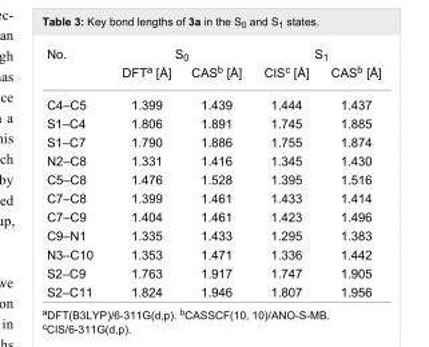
<table><tbody><tr><td rowspan="2">No.</td><td colspan="2">S<sub>0</sub></td><td colspan="2">S<sub>1</sub></td></tr><tr><td>DFT<sup>a</sup> [Å]</td><td>CAS<sup>b</sup> [Å]</td><td>CIS<sup>c</sup> [Å]</td><td>CAS<sup>b</sup> [Å]</td></tr><tr><td>C4–C5</td><td>1.399</td><td>1.439</td><td>1.444</td><td>1.437</td></tr><tr><td>S1–C4</td><td>1.806</td><td>1.891</td><td>1.745</td><td>1.885</td></tr><tr><td>S1–C7</td><td>1.790</td><td>1.886</td><td>1.755</td><td>1.874</td></tr><tr><td>N2–C8</td><td>1.331</td><td>1.416</td><td>1.345</td><td>1.430</td></tr><tr><td>C5–C8</td><td>1.476</td><td>1.528</td><td>1.395</td><td>1.516</td></tr><tr><td>C7–C8</td><td>1.399</td><td>1.461</td><td>1.433</td><td>1.414</td></tr><tr><td>C7–C9</td><td>1.404</td><td>1.461</td><td>1.423</td><td>1.496</td></tr><tr><td>C9–N1</td><td>1.335</td><td>1.433</td><td>1.295</td><td>1.383</td></tr><tr><td>N3–C10</td><td>1.353</td><td>1.471</td><td>1.336</td><td>1.442</td></tr><tr><td>S2–C9</td><td>1.763</td><td>1.917</td><td>1.747</td><td>1.905</td></tr><tr><td>S2–C11</td><td>1.824</td><td>1.946</td><td>1.807</td><td>1.956</td></tr></tbody></table>